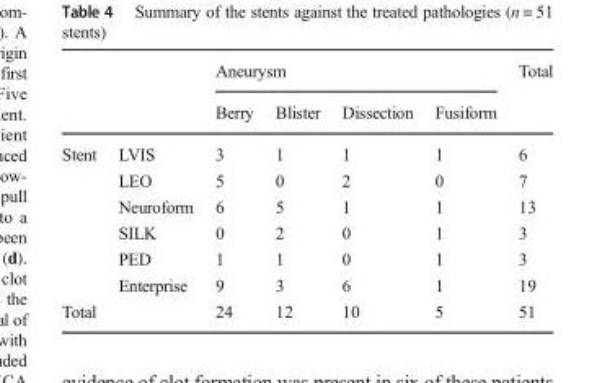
<table><thead><tr><td rowspan="2"></td><td rowspan="2"></td><td colspan="4">Aneurysm</td><td rowspan="2">Total</td></tr><tr><td>Berry</td><td>Blister</td><td>Dissection</td><td>Fusiform</td></tr></thead><tbody><tr><td rowspan="6">Stent</td><td>LVIS</td><td>3</td><td>1</td><td>1</td><td>1</td><td>6</td></tr><tr><td>LEO</td><td>5</td><td>0</td><td>2</td><td>0</td><td>7</td></tr><tr><td>Neuroform</td><td>6</td><td>5</td><td>1</td><td>1</td><td>13</td></tr><tr><td>SILK</td><td>0</td><td>2</td><td>0</td><td>1</td><td>3</td></tr><tr><td>PED</td><td>1</td><td>1</td><td>0</td><td>1</td><td>3</td></tr><tr><td>Enterprise</td><td>9</td><td>3</td><td>6</td><td>1</td><td>19</td></tr><tr><td colspan="2">Total</td><td>24</td><td>12</td><td>10</td><td>5</td><td>51</td></tr></tbody></table>